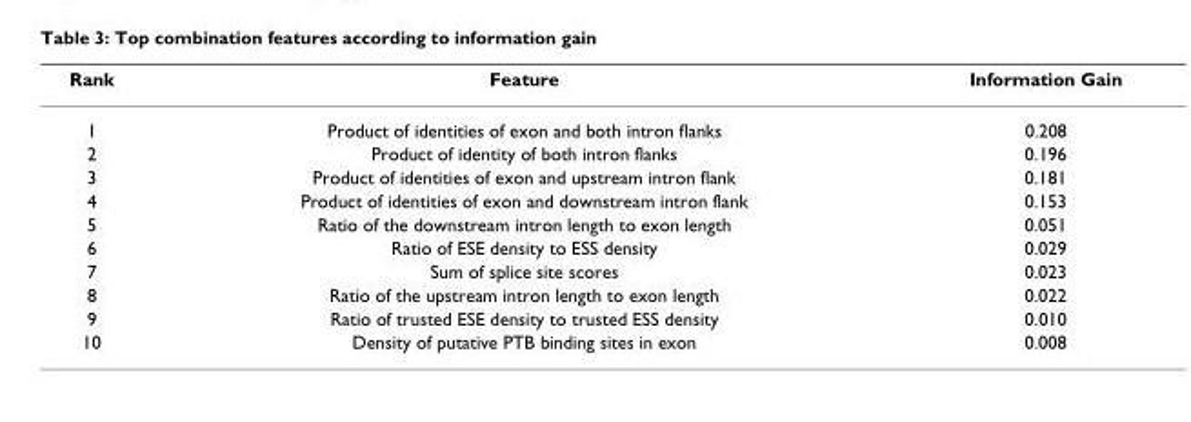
<table><thead><tr><td>Rank</td><td>Feature</td><td>Information Gain</td></tr></thead><tbody><tr><td>1</td><td>Product of identities of exon and both intron flanks</td><td>0.208</td></tr><tr><td>2</td><td>Product of identity of both intron flanks</td><td>0.196</td></tr><tr><td>3</td><td>Product of identities of exon and upstream intron flank</td><td>0.181</td></tr><tr><td>4</td><td>Product of identities of exon and downstream intron flank</td><td>0.153</td></tr><tr><td>5</td><td>Ratio of the downstream intron length to exon length</td><td>0.051</td></tr><tr><td>6</td><td>Ratio of ESE density to ESS density</td><td>0.029</td></tr><tr><td>7</td><td>Sum of splice site scores</td><td>0.023</td></tr><tr><td>8</td><td>Ratio of the upstream intron length to exon length</td><td>0.022</td></tr><tr><td>9</td><td>Ratio of trusted ESE density to trusted ESS density</td><td>0.010</td></tr><tr><td>10</td><td>Density of putative PTB binding sites in exon</td><td>0.008</td></tr></tbody></table>